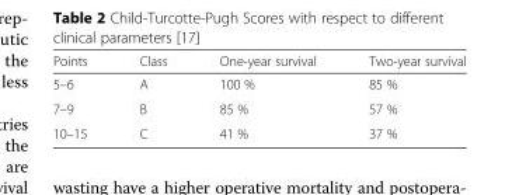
<table><thead><tr><td>Points</td><td>Class</td><td>One-year survival</td><td>Two-year survival</td></tr></thead><tbody><tr><td>5–6</td><td>A</td><td>100 %</td><td>85 %</td></tr><tr><td>7–9</td><td>B</td><td>85 %</td><td>57 %</td></tr><tr><td>10–15</td><td>C</td><td>41 %</td><td>37 %</td></tr></tbody></table>